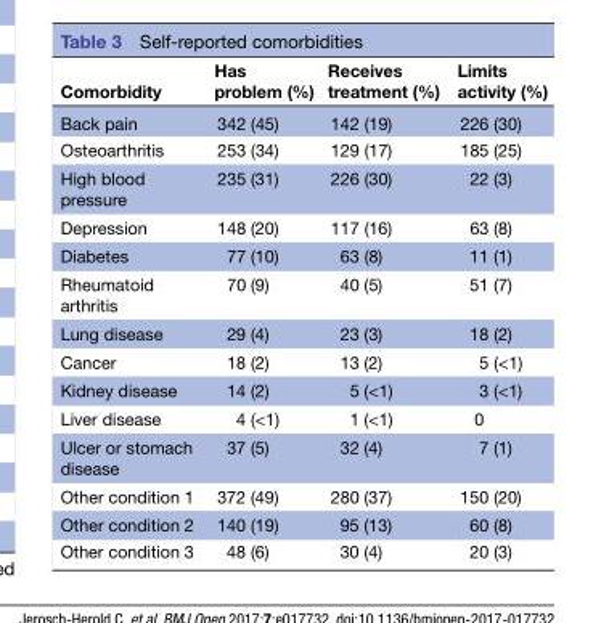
<table><thead><tr><td>Comorbidity</td><td>Has problem (%)</td><td>Receives treatment (%)</td><td>Limits activity (%)</td></tr></thead><tbody><tr><td>Back pain</td><td>342 (45)</td><td>142 (19)</td><td>226 (30)</td></tr><tr><td>Osteoarthritis</td><td>253 (34)</td><td>129 (17)</td><td>185 (25)</td></tr><tr><td>High blood pressure</td><td>235 (31)</td><td>226 (30)</td><td>22 (3)</td></tr><tr><td>Depression</td><td>148 (20)</td><td>117 (16)</td><td>63 (8)</td></tr><tr><td>Diabetes</td><td>77 (10)</td><td>63 (8)</td><td>11 (1)</td></tr><tr><td>Rheumatoid arthritis</td><td>70 (9)</td><td>40 (5)</td><td>51 (7)</td></tr><tr><td>Lung disease</td><td>29 (4)</td><td>23 (3)</td><td>18 (2)</td></tr><tr><td>Cancer</td><td>18 (2)</td><td>13 (2)</td><td>5 (&lt;1)</td></tr><tr><td>Kidney disease</td><td>14 (2)</td><td>5 (&lt;1)</td><td>3 (&lt;1)</td></tr><tr><td>Liver disease</td><td>4 (&lt;1)</td><td>1 (&lt;1)</td><td>0</td></tr><tr><td>Ulcer or stomach disease</td><td>37 (5)</td><td>32 (4)</td><td>7 (1)</td></tr><tr><td>Other condition 1</td><td>372 (49)</td><td>280 (37)</td><td>150 (20)</td></tr><tr><td>Other condition 2</td><td>140 (19)</td><td>95 (13)</td><td>60 (8)</td></tr><tr><td>Other condition 3</td><td>48 (6)</td><td>30 (4)</td><td>20 (3)</td></tr></tbody></table>